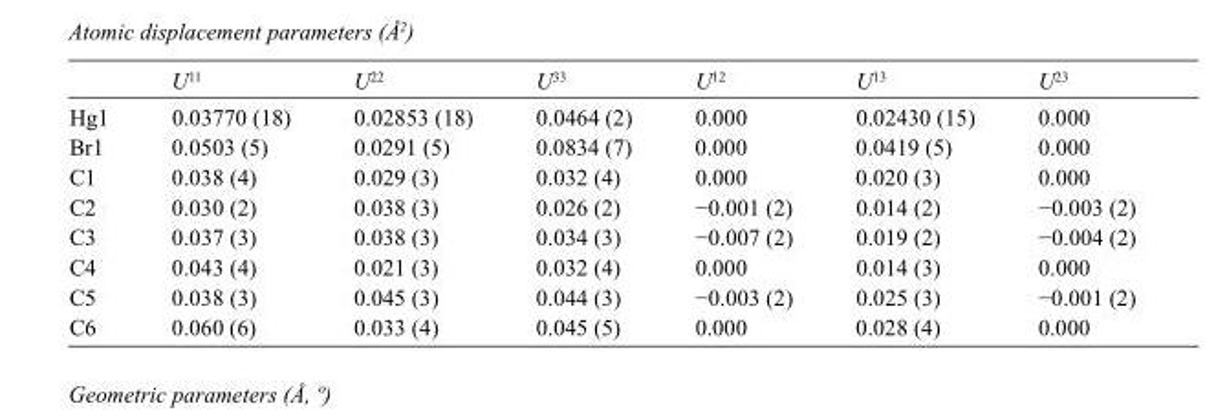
<table><thead><tr><td></td><td>U<sup>11</sup></td><td>U<sup>22</sup></td><td>U<sup>33</sup></td><td>U<sup>12</sup></td><td>U<sup>13</sup></td><td>U<sup>23</sup></td></tr></thead><tbody><tr><td>Hg1</td><td>0.03770 (18)</td><td>0.02853 (18)</td><td>0.0464 (2)</td><td>0.000</td><td>0.02430 (15)</td><td>0.000</td></tr><tr><td>Br1</td><td>0.0503 (5)</td><td>0.0291 (5)</td><td>0.0834 (7)</td><td>0.000</td><td>0.0419 (5)</td><td>0.000</td></tr><tr><td>C1</td><td>0.038 (4)</td><td>0.029 (3)</td><td>0.032 (4)</td><td>0.000</td><td>0.020 (3)</td><td>0.000</td></tr><tr><td>C2</td><td>0.030 (2)</td><td>0.038 (3)</td><td>0.026 (2)</td><td>−0.001 (2)</td><td>0.014 (2)</td><td>−0.003 (2)</td></tr><tr><td>C3</td><td>0.037 (3)</td><td>0.038 (3)</td><td>0.034 (3)</td><td>−0.007 (2)</td><td>0.019 (2)</td><td>−0.004 (2)</td></tr><tr><td>C4</td><td>0.043 (4)</td><td>0.021 (3)</td><td>0.032 (4)</td><td>0.000</td><td>0.014 (3)</td><td>0.000</td></tr><tr><td>C5</td><td>0.038 (3)</td><td>0.045 (3)</td><td>0.044 (3)</td><td>−0.003 (2)</td><td>0.025 (3)</td><td>−0.001 (2)</td></tr><tr><td>C6</td><td>0.060 (6)</td><td>0.033 (4)</td><td>0.045 (5)</td><td>0.000</td><td>0.028 (4)</td><td>0.000</td></tr></tbody></table>